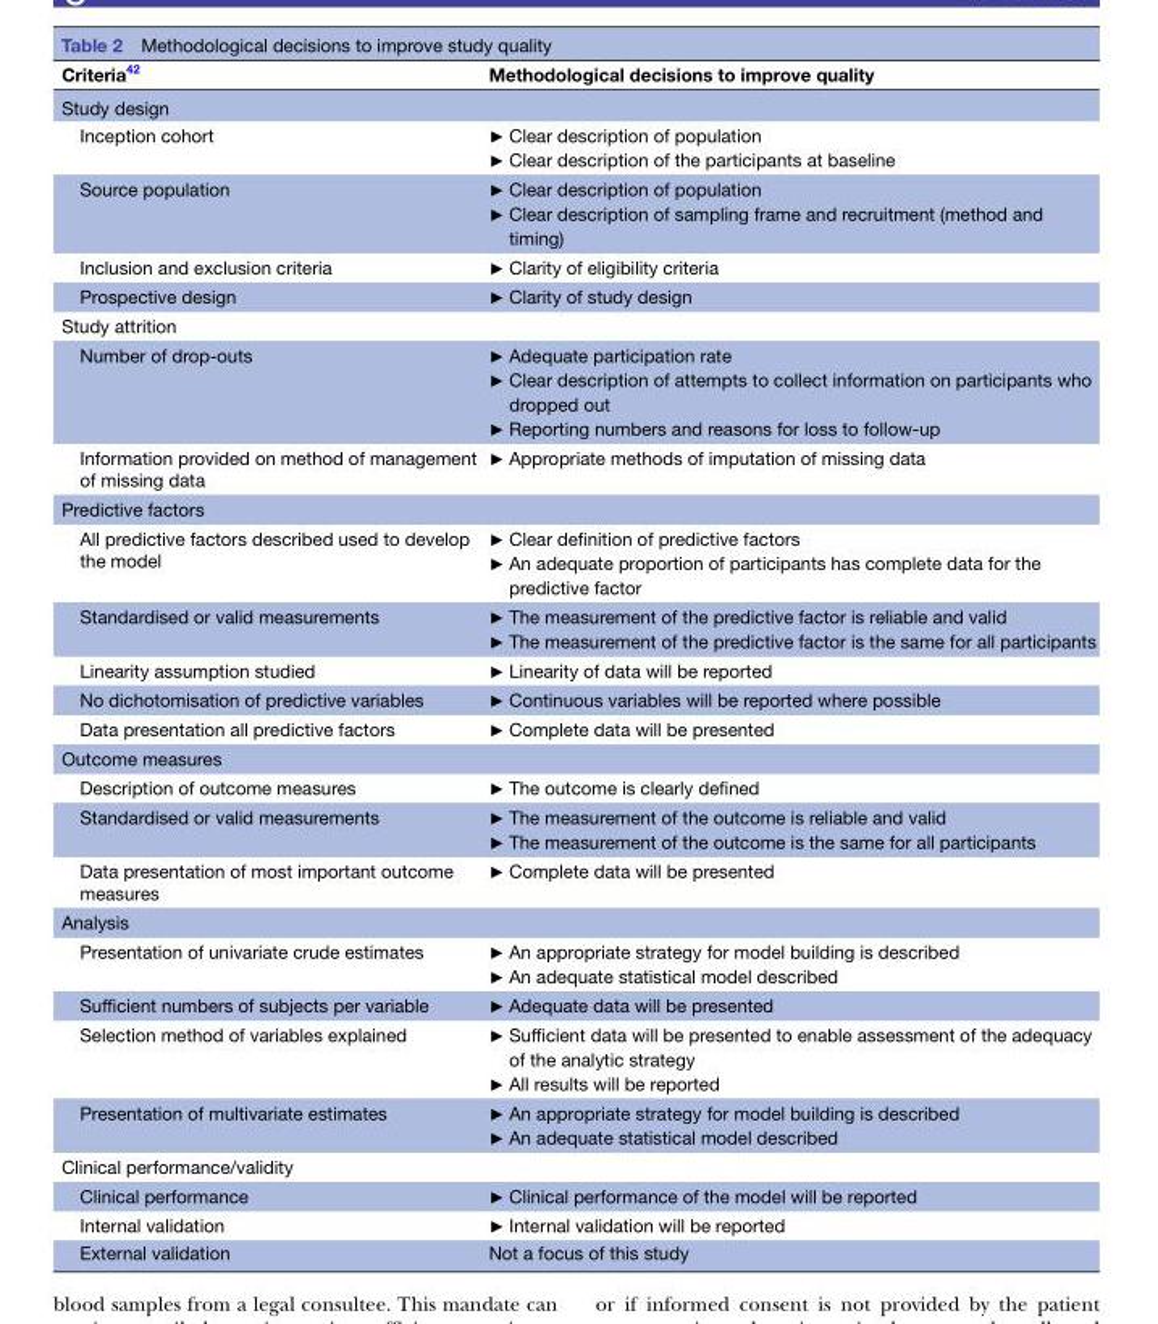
<table><thead><tr><td>Criteria<sup>42</sup></td><td>Methodological decisions to improve quality</td></tr></thead><tbody><tr><td colspan="2">Study design</td></tr><tr><td>Inception cohort</td><td>► Clear description of population ► Clear description of the participants at baseline</td></tr><tr><td>Source population</td><td>► Clear description of population ► Clear description of sampling frame and recruitment (method and timing)</td></tr><tr><td>Inclusion and exclusion criteria</td><td>► Clarity of eligibility criteria</td></tr><tr><td>Prospective design</td><td>► Clarity of study design</td></tr><tr><td colspan="2">Study attrition</td></tr><tr><td>Number of drop-outs</td><td>► Adequate participation rate ► Clear description of attempts to collect information on participants who dropped out ► Reporting numbers and reasons for loss to follow-up</td></tr><tr><td>Information provided on method of management of missing data</td><td>► Appropriate methods of imputation of missing data</td></tr><tr><td colspan="2">Predictive factors</td></tr><tr><td>All predictive factors described used to develop the model</td><td>► Clear definition of predictive factors ► An adequate proportion of participants has complete data for the predictive factor</td></tr><tr><td>Standardised or valid measurements</td><td>► The measurement of the predictive factor is reliable and valid ► The measurement of the predictive factor is the same for all participants</td></tr><tr><td>Linearity assumption studied</td><td>► Linearity of data will be reported</td></tr><tr><td>No dichotomisation of predictive variables</td><td>► Continuous variables will be reported where possible</td></tr><tr><td>Data presentation all predictive factors</td><td>► Complete data will be presented</td></tr><tr><td colspan="2">Outcome measures</td></tr><tr><td>Description of outcome measures</td><td>► The outcome is clearly defined</td></tr><tr><td>Standardised or valid measurements</td><td>► The measurement of the outcome is reliable and valid ► The measurement of the outcome is the same for all participants</td></tr><tr><td>Data presentation of most important outcome measures</td><td>► Complete data will be presented</td></tr><tr><td colspan="2">Analysis</td></tr><tr><td>Presentation of univariate crude estimates</td><td>► An appropriate strategy for model building is described ► An adequate statistical model described</td></tr><tr><td>Sufficient numbers of subjects per variable</td><td>► Adequate data will be presented</td></tr><tr><td>Selection method of variables explained</td><td>► Sufficient data will be presented to enable assessment of the adequacy of the analytic strategy ► All results will be reported</td></tr><tr><td>Presentation of multivariate estimates</td><td>► An appropriate strategy for model building is described ► An adequate statistical model described</td></tr><tr><td colspan="2">Clinical performance/validity</td></tr><tr><td>Clinical performance</td><td>► Clinical performance of the model will be reported</td></tr><tr><td>Internal validation</td><td>► Internal validation will be reported</td></tr><tr><td>External validation</td><td>Not a focus of this study</td></tr></tbody></table>